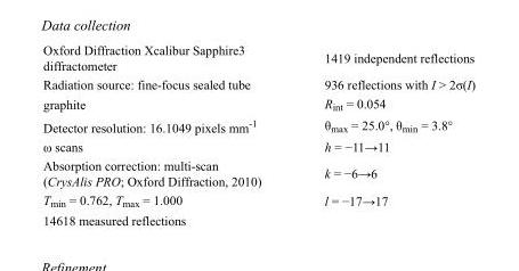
<table><tbody><tr><td>Oxford Diffraction Xcalibur Sapphire3 diffractometer</td><td>1419 independent reflections</td></tr><tr><td>Radiation source: fine-focus sealed tube</td><td>936 reflections with I &gt; 2σ(I)</td></tr><tr><td>graphite</td><td>R<sub>int</sub> = 0.054</td></tr><tr><td>Detector resolution: 16.1049 pixels mm<sup>-1</sup></td><td>θ<sub>max</sub> = 25.0°, θ<sub>min</sub> = 3.8°</td></tr><tr><td>ω scans</td><td>h = −11→11</td></tr><tr><td>Absorption correction: multi-scan (CrysAlis PRO; Oxford Diffraction, 2010)</td><td>k = −6→6</td></tr><tr><td>T<sub>min</sub> = 0.762, T<sub>max</sub> = 1.000</td><td>l = −17→17</td></tr><tr><td>14618 measured reflections</td><td></td></tr></tbody></table>